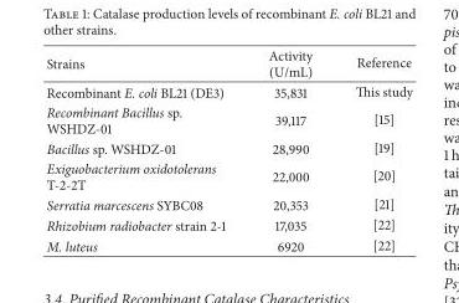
<table><thead><tr><td>Strains</td><td>Activity (U/mL)</td><td>Reference</td></tr></thead><tbody><tr><td>Recombinant E. coli BL21 (DE3)</td><td>35,831</td><td>This study</td></tr><tr><td>Recombinant Bacillus sp. WSHDZ-01</td><td>39,117</td><td>[15]</td></tr><tr><td>Bacillus sp. WSHDZ-01</td><td>28,990</td><td>[19]</td></tr><tr><td>Exiguobacterium oxidotolerans T-2-2T</td><td>22,000</td><td>[20]</td></tr><tr><td>Serratia marcescens SYBC08</td><td>20,353</td><td>[21]</td></tr><tr><td>Rhizobium radiobacter strain 2-1</td><td>17,035</td><td>[22]</td></tr><tr><td>M. luteus</td><td>6920</td><td>[22]</td></tr></tbody></table>